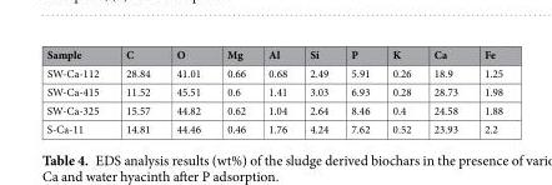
<table><thead><tr><td>Sample</td><td>C</td><td>O</td><td>Mg</td><td>Al</td><td>Si</td><td>P</td><td>K</td><td>Ca</td><td>Fe</td></tr></thead><tbody><tr><td>SW-Ca-112</td><td>28.84</td><td>41.01</td><td>0.66</td><td>0.68</td><td>2.49</td><td>5.91</td><td>0.26</td><td>18.9</td><td>1.25</td></tr><tr><td>SW-Ca-415</td><td>11.52</td><td>45.51</td><td>0.6</td><td>1.41</td><td>3.03</td><td>6.93</td><td>0.28</td><td>28.73</td><td>1.98</td></tr><tr><td>SW-Ca-325</td><td>15.57</td><td>44.82</td><td>0.62</td><td>1.04</td><td>2.64</td><td>8.46</td><td>0.4</td><td>24.58</td><td>1.88</td></tr><tr><td>S-Ca-11</td><td>14.81</td><td>44.46</td><td>0.46</td><td>1.76</td><td>4.24</td><td>7.62</td><td>0.52</td><td>23.93</td><td>2.2</td></tr></tbody></table>